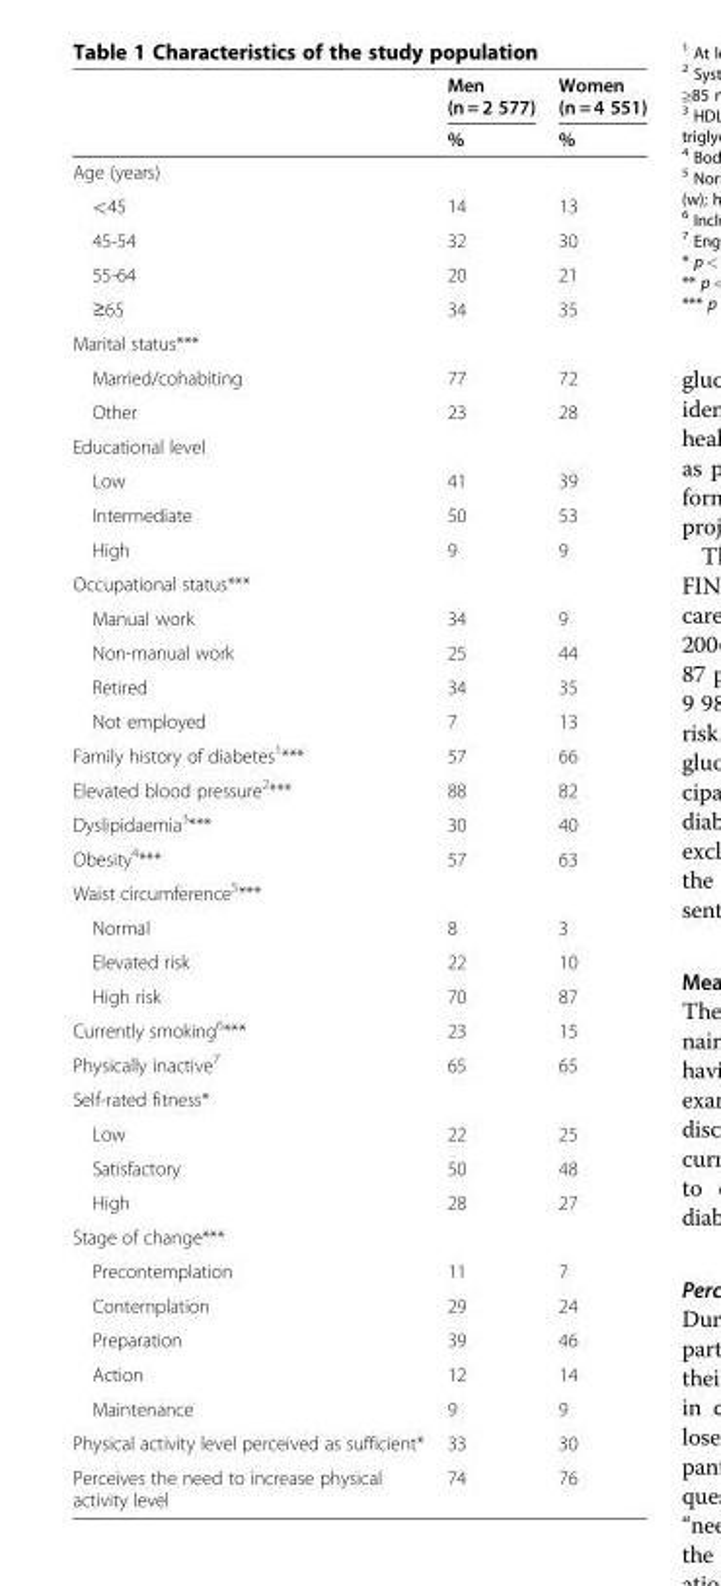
<table><thead><tr><td rowspan="2"></td><td rowspan="2">Men (n = 2 577) %</td><td rowspan="2">Women (n = 4 551) %</td></tr><tr></tr></thead><tbody><tr><td colspan="3">Age (years)</td></tr><tr><td>&lt;45</td><td>14</td><td>13</td></tr><tr><td>45-54</td><td>32</td><td>30</td></tr><tr><td>55-64</td><td>20</td><td>21</td></tr><tr><td>≥65</td><td>34</td><td>35</td></tr><tr><td colspan="3">Marital status***</td></tr><tr><td>Married/cohabiting</td><td>77</td><td>72</td></tr><tr><td>Other</td><td>23</td><td>28</td></tr><tr><td colspan="3">Educational level</td></tr><tr><td>Low</td><td>41</td><td>39</td></tr><tr><td>Intermediate</td><td>50</td><td>53</td></tr><tr><td>High</td><td>9</td><td>9</td></tr><tr><td colspan="3">Occupational status***</td></tr><tr><td>Manual work</td><td>34</td><td>9</td></tr><tr><td>Non-manual work</td><td>25</td><td>44</td></tr><tr><td>Retired</td><td>34</td><td>35</td></tr><tr><td>Not employed</td><td>7</td><td>13</td></tr><tr><td>Family history of diabetes<sup>1</sup>***</td><td>57</td><td>66</td></tr><tr><td>Elevated blood pressure<sup>2</sup>***</td><td>88</td><td>82</td></tr><tr><td>Dyslipidaemia<sup>3</sup>***</td><td>30</td><td>40</td></tr><tr><td>Obesity<sup>4</sup>***</td><td>57</td><td>63</td></tr><tr><td colspan="3">Waist circumference<sup>5</sup>***</td></tr><tr><td>Normal</td><td>8</td><td>3</td></tr><tr><td>Elevated risk</td><td>22</td><td>10</td></tr><tr><td>High risk</td><td>70</td><td>87</td></tr><tr><td>Currently smoking<sup>6</sup>***</td><td>23</td><td>15</td></tr><tr><td>Physically inactive<sup>7</sup></td><td>65</td><td>65</td></tr><tr><td colspan="3">Self-rated fitness*</td></tr><tr><td>Low</td><td>22</td><td>25</td></tr><tr><td>Satisfactory</td><td>50</td><td>48</td></tr><tr><td>High</td><td>28</td><td>27</td></tr><tr><td colspan="3">Stage of change***</td></tr><tr><td>Precontemplation</td><td>11</td><td>7</td></tr><tr><td>Contemplation</td><td>29</td><td>24</td></tr><tr><td>Preparation</td><td>39</td><td>46</td></tr><tr><td>Action</td><td>12</td><td>14</td></tr><tr><td>Maintenance</td><td>9</td><td>9</td></tr><tr><td>Physical activity level perceived as sufficient*</td><td>33</td><td>30</td></tr><tr><td>Perceives the need to increase physical activity level</td><td>74</td><td>76</td></tr></tbody></table>